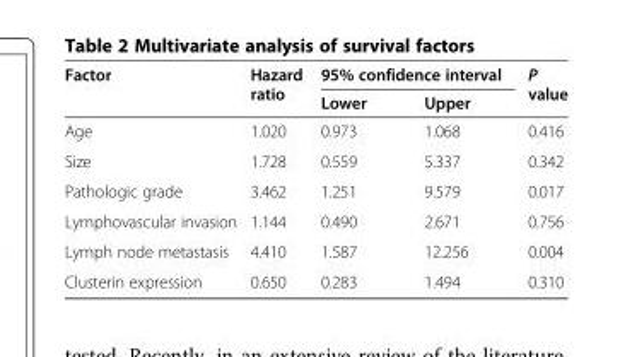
<table><thead><tr><td rowspan="2">Factor</td><td rowspan="2">Hazard ratio</td><td colspan="2">95% confidence interval</td><td rowspan="2">P value</td></tr><tr><td>Lower</td><td>Upper</td></tr></thead><tbody><tr><td>Age</td><td>1.020</td><td>0.973</td><td>1.068</td><td>0.416</td></tr><tr><td>Size</td><td>1.728</td><td>0.559</td><td>5.337</td><td>0.342</td></tr><tr><td>Pathologic grade</td><td>3.462</td><td>1.251</td><td>9.579</td><td>0.017</td></tr><tr><td>Lymphovascular invasion</td><td>1.144</td><td>0.490</td><td>2.671</td><td>0.756</td></tr><tr><td>Lymph node metastasis</td><td>4.410</td><td>1.587</td><td>12.256</td><td>0.004</td></tr><tr><td>Clusterin expression</td><td>0.650</td><td>0.283</td><td>1.494</td><td>0.310</td></tr></tbody></table>